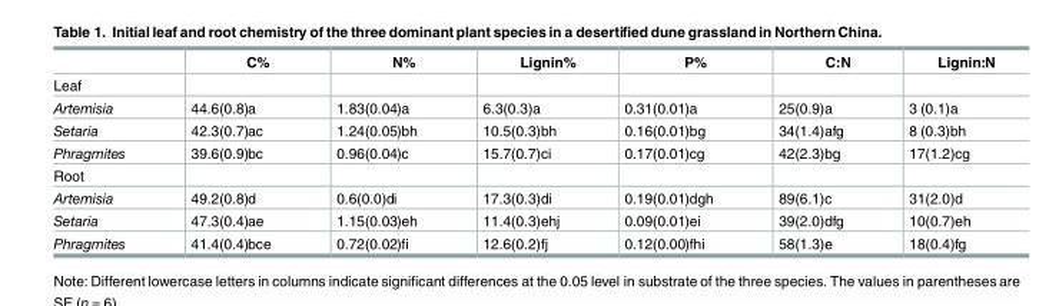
<table><thead><tr><td></td><td>C%</td><td>N%</td><td>Lignin%</td><td>P%</td><td>C:N</td><td>Lignin:N</td></tr></thead><tbody><tr><td colspan="7">Leaf</td></tr><tr><td>Artemisia</td><td>44.6(0.8)a</td><td>1.83(0.04)a</td><td>6.3(0.3)a</td><td>0.31(0.01)a</td><td>25(0.9)a</td><td>3 (0.1)a</td></tr><tr><td>Setaria</td><td>42.3(0.7)ac</td><td>1.24(0.05)bh</td><td>10.5(0.3)bh</td><td>0.16(0.01)bg</td><td>34(1.4)afg</td><td>8 (0.3)bh</td></tr><tr><td>Phragmites</td><td>39.6(0.9)bc</td><td>0.96(0.04)c</td><td>15.7(0.7)ci</td><td>0.17(0.01)cg</td><td>42(2.3)bg</td><td>17(1.2)cg</td></tr><tr><td colspan="7">Root</td></tr><tr><td>Artemisia</td><td>49.2(0.8)d</td><td>0.6(0.0)di</td><td>17.3(0.3)di</td><td>0.19(0.01)dgh</td><td>89(6.1)c</td><td>31(2.0)d</td></tr><tr><td>Setaria</td><td>47.3(0.4)ae</td><td>1.15(0.03)eh</td><td>11.4(0.3)ehj</td><td>0.09(0.01)ei</td><td>39(2.0)dfg</td><td>10(0.7)eh</td></tr><tr><td>Phragmites</td><td>41.4(0.4)bce</td><td>0.72(0.02)fi</td><td>12.6(0.2)fj</td><td>0.12(0.00)fhi</td><td>58(1.3)e</td><td>18(0.4)fg</td></tr></tbody></table>